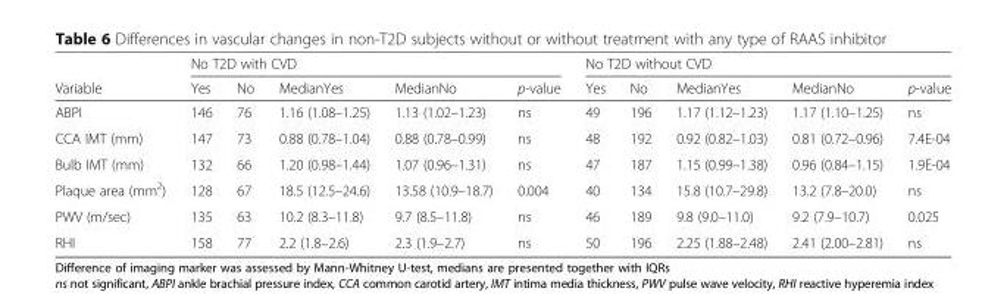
<table><thead><tr><td rowspan="2">Variable</td><td colspan="5">No T2D with CVD</td><td colspan="5">No T2D without CVD</td></tr><tr><td>Yes</td><td>No</td><td>MedianYes</td><td>MedianNo</td><td>p-value</td><td>Yes</td><td>No</td><td>MedianYes</td><td>MedianNo</td><td>p-value</td></tr></thead><tbody><tr><td>ABPI</td><td>146</td><td>76</td><td>1.16 (1.08–1.25)</td><td>1.13 (1.02–1.23)</td><td>ns</td><td>49</td><td>196</td><td>1.17 (1.12–1.23)</td><td>1.17 (1.10–1.25)</td><td>ns</td></tr><tr><td>CCA IMT (mm)</td><td>147</td><td>73</td><td>0.88 (0.78–1.04)</td><td>0.88 (0.78–0.99)</td><td>ns</td><td>48</td><td>192</td><td>0.92 (0.82–1.03)</td><td>0.81 (0.72–0.96)</td><td>7.4E-04</td></tr><tr><td>Bulb IMT (mm)</td><td>132</td><td>66</td><td>1.20 (0.98–1.44)</td><td>1.07 (0.96–1.31)</td><td>ns</td><td>47</td><td>187</td><td>1.15 (0.99–1.38)</td><td>0.96 (0.84–1.15)</td><td>1.9E-04</td></tr><tr><td>Plaque area (mm<sup>2</sup>)</td><td>128</td><td>67</td><td>18.5 (12.5–24.6)</td><td>13.58 (10.9–18.7)</td><td>0.004</td><td>40</td><td>134</td><td>15.8 (10.7–29.8)</td><td>13.2 (7.8–20.0)</td><td>ns</td></tr><tr><td>PWV (m/sec)</td><td>135</td><td>63</td><td>10.2 (8.3–11.8)</td><td>9.7 (8.5–11.8)</td><td>ns</td><td>46</td><td>189</td><td>9.8 (9.0–11.0)</td><td>9.2 (7.9–10.7)</td><td>0.025</td></tr><tr><td>RHI</td><td>158</td><td>77</td><td>2.2 (1.8–2.6)</td><td>2.3 (1.9–2.7)</td><td>ns</td><td>50</td><td>196</td><td>2.25 (1.88–2.48)</td><td>2.41 (2.00–2.81)</td><td>ns</td></tr></tbody></table>